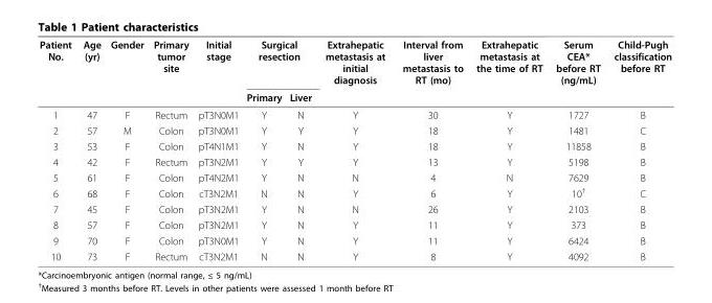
<table><thead><tr><td rowspan="2">Patient No.</td><td rowspan="2">Age (yr)</td><td rowspan="2">Gender</td><td rowspan="2">Primary tumor site</td><td rowspan="2">Initial stage</td><td colspan="2">Surgical resection</td><td rowspan="2">Extrahepatic metastasis at initial diagnosis</td><td rowspan="2">Interval from liver metastasis to RT (mo)</td><td rowspan="2">Extrahepatic metastasis at the time of RT</td><td rowspan="2">Serum CEA* before RT (ng/mL)</td><td rowspan="2">Child-Pugh classification before RT</td></tr><tr><td>Primary</td><td>Liver</td></tr></thead><tbody><tr><td>1</td><td>47</td><td>F</td><td>Rectum</td><td>pT3N0M1</td><td>Y</td><td>N</td><td>Y</td><td>30</td><td>Y</td><td>1727</td><td>B</td></tr><tr><td>2</td><td>57</td><td>M</td><td>Colon</td><td>pT3N0M1</td><td>Y</td><td>Y</td><td>Y</td><td>18</td><td>Y</td><td>1481</td><td>C</td></tr><tr><td>3</td><td>53</td><td>F</td><td>Colon</td><td>pT4N1M1</td><td>Y</td><td>N</td><td>Y</td><td>18</td><td>Y</td><td>11858</td><td>B</td></tr><tr><td>4</td><td>42</td><td>F</td><td>Rectum</td><td>pT3N2M1</td><td>Y</td><td>Y</td><td>Y</td><td>13</td><td>Y</td><td>5198</td><td>B</td></tr><tr><td>5</td><td>61</td><td>F</td><td>Colon</td><td>pT4N2M1</td><td>Y</td><td>N</td><td>N</td><td>4</td><td>N</td><td>7629</td><td>B</td></tr><tr><td>6</td><td>68</td><td>F</td><td>Colon</td><td>cT3N2M1</td><td>N</td><td>N</td><td>Y</td><td>6</td><td>Y</td><td>10<sup>†</sup></td><td>C</td></tr><tr><td>7</td><td>45</td><td>F</td><td>Colon</td><td>pT3N2M1</td><td>Y</td><td>N</td><td>N</td><td>26</td><td>Y</td><td>2103</td><td>B</td></tr><tr><td>8</td><td>57</td><td>F</td><td>Colon</td><td>pT3N2M1</td><td>Y</td><td>N</td><td>Y</td><td>11</td><td>Y</td><td>373</td><td>B</td></tr><tr><td>9</td><td>70</td><td>F</td><td>Colon</td><td>pT3N0M1</td><td>Y</td><td>N</td><td>Y</td><td>11</td><td>Y</td><td>6424</td><td>B</td></tr><tr><td>10</td><td>73</td><td>F</td><td>Rectum</td><td>cT3N2M1</td><td>N</td><td>N</td><td>Y</td><td>8</td><td>Y</td><td>4092</td><td>B</td></tr></tbody></table>